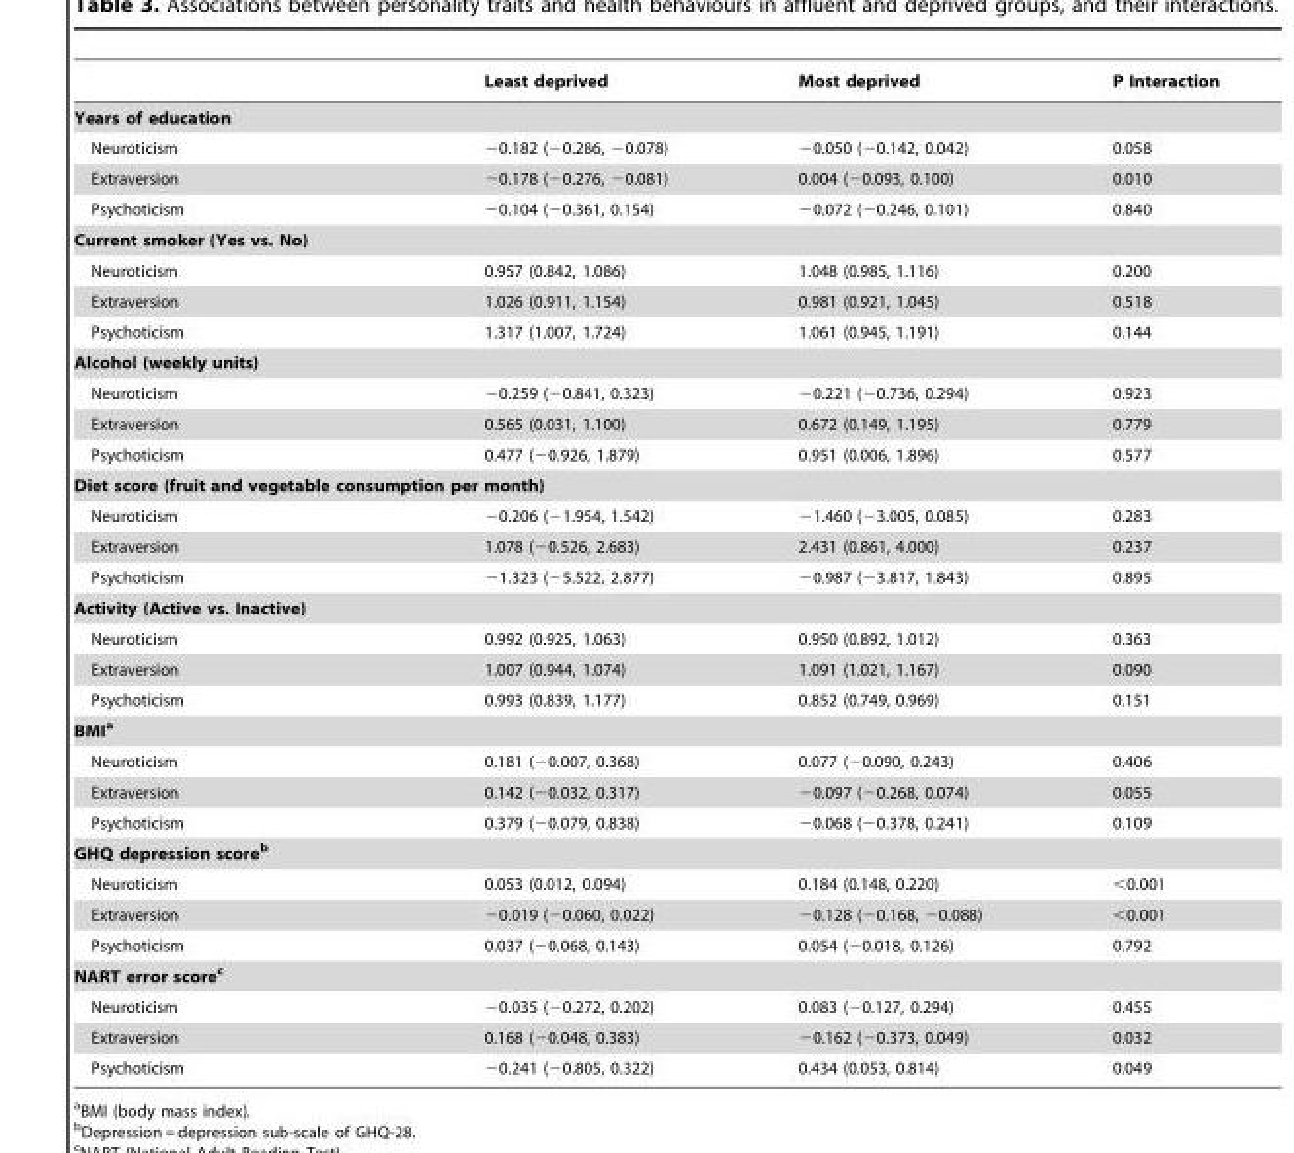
<table><thead><tr><td></td><td>Least deprived</td><td>Most deprived</td><td>P Interaction</td></tr></thead><tbody><tr><td colspan="4">Years of education</td></tr><tr><td>Neuroticism</td><td>−0.182 (−0.286, −0.078)</td><td>−0.050 (−0.142, 0.042)</td><td>0.058</td></tr><tr><td>Extraversion</td><td>−0.178 (−0.276, −0.081)</td><td>0.004 (−0.093, 0.100)</td><td>0.010</td></tr><tr><td>Psychoticism</td><td>−0.104 (−0.361, 0.154)</td><td>−0.072 (−0.246, 0.101)</td><td>0.840</td></tr><tr><td colspan="4">Current smoker (Yes vs. No)</td></tr><tr><td>Neuroticism</td><td>0.957 (0.842, 1.086)</td><td>1.048 (0.985, 1.116)</td><td>0.200</td></tr><tr><td>Extraversion</td><td>1.026 (0.911, 1.154)</td><td>0.981 (0.921, 1.045)</td><td>0.518</td></tr><tr><td>Psychoticism</td><td>1.317 (1.007, 1.724)</td><td>1.061 (0.945, 1.191)</td><td>0.144</td></tr><tr><td colspan="4">Alcohol (weekly units)</td></tr><tr><td>Neuroticism</td><td>−0.259 (−0.841, 0.323)</td><td>−0.221 (−0.736, 0.294)</td><td>0.923</td></tr><tr><td>Extraversion</td><td>0.565 (0.031, 1.100)</td><td>0.672 (0.149, 1.195)</td><td>0.779</td></tr><tr><td>Psychoticism</td><td>0.477 (−0.926, 1.879)</td><td>0.951 (0.006, 1.896)</td><td>0.577</td></tr><tr><td colspan="4">Diet score (fruit and vegetable consumption per month)</td></tr><tr><td>Neuroticism</td><td>−0.206 (−1.954, 1.542)</td><td>−1.460 (−3.005, 0.085)</td><td>0.283</td></tr><tr><td>Extraversion</td><td>1.078 (−0.526, 2.683)</td><td>2.431 (0.861, 4.000)</td><td>0.237</td></tr><tr><td>Psychoticism</td><td>−1.323 (−5.522, 2.877)</td><td>−0.987 (−3.817, 1.843)</td><td>0.895</td></tr><tr><td colspan="4">Activity (Active vs. Inactive)</td></tr><tr><td>Neuroticism</td><td>0.992 (0.925, 1.063)</td><td>0.950 (0.892, 1.012)</td><td>0.363</td></tr><tr><td>Extraversion</td><td>1.007 (0.944, 1.074)</td><td>1.091 (1.021, 1.167)</td><td>0.090</td></tr><tr><td>Psychoticism</td><td>0.993 (0.839, 1.177)</td><td>0.852 (0.749, 0.969)</td><td>0.151</td></tr><tr><td colspan="4">BMIa</td></tr><tr><td>Neuroticism</td><td>0.181 (−0.007, 0.368)</td><td>0.077 (−0.090, 0.243)</td><td>0.406</td></tr><tr><td>Extraversion</td><td>0.142 (−0.032, 0.317)</td><td>−0.097 (−0.268, 0.074)</td><td>0.055</td></tr><tr><td>Psychoticism</td><td>0.379 (−0.079, 0.838)</td><td>−0.068 (−0.378, 0.241)</td><td>0.109</td></tr><tr><td colspan="4">GHQ depression scoreb</td></tr><tr><td>Neuroticism</td><td>0.053 (0.012, 0.094)</td><td>0.184 (0.148, 0.220)</td><td>&lt;0.001</td></tr><tr><td>Extraversion</td><td>−0.019 (−0.060, 0.022)</td><td>−0.128 (−0.168, −0.088)</td><td>&lt;0.001</td></tr><tr><td>Psychoticism</td><td>0.037 (−0.068, 0.143)</td><td>0.054 (−0.018, 0.126)</td><td>0.792</td></tr><tr><td colspan="4">NART error scorec</td></tr><tr><td>Neuroticism</td><td>−0.035 (−0.272, 0.202)</td><td>0.083 (−0.127, 0.294)</td><td>0.455</td></tr><tr><td>Extraversion</td><td>0.168 (−0.048, 0.383)</td><td>−0.162 (−0.373, 0.049)</td><td>0.032</td></tr><tr><td>Psychoticism</td><td>−0.241 (−0.805, 0.322)</td><td>0.434 (0.053, 0.814)</td><td>0.049</td></tr></tbody></table>